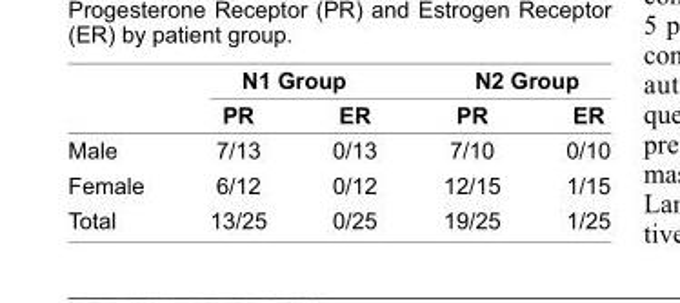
<table><thead><tr><td rowspan="2"></td><td colspan="2">N1 Group</td><td colspan="2">N2 Group</td></tr><tr><td>PR</td><td>ER</td><td>PR</td><td>ER</td></tr></thead><tbody><tr><td>Male</td><td>7/13</td><td>0/13</td><td>7/10</td><td>0/10</td></tr><tr><td>Female</td><td>6/12</td><td>0/12</td><td>12/15</td><td>1/15</td></tr><tr><td>Total</td><td>13/25</td><td>0/25</td><td>19/25</td><td>1/25</td></tr></tbody></table>